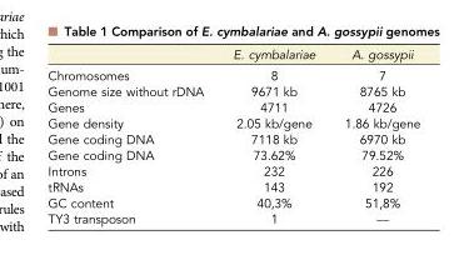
<table><thead><tr><td></td><td>E. cymbalariae</td><td>A. gossypii</td></tr></thead><tbody><tr><td>Chromosomes</td><td>8</td><td>7</td></tr><tr><td>Genome size without rDNA</td><td>9671 kb</td><td>8765 kb</td></tr><tr><td>Genes</td><td>4711</td><td>4726</td></tr><tr><td>Gene density</td><td>2.05 kb/gene</td><td>1.86 kb/gene</td></tr><tr><td>Gene coding DNA</td><td>7118 kb</td><td>6970 kb</td></tr><tr><td>Gene coding DNA</td><td>73.62%</td><td>79.52%</td></tr><tr><td>Introns</td><td>232</td><td>226</td></tr><tr><td>tRNAs</td><td>143</td><td>192</td></tr><tr><td>GC content</td><td>40,3%</td><td>51,8%</td></tr><tr><td>TY3 transposon</td><td>1</td><td>—</td></tr></tbody></table>